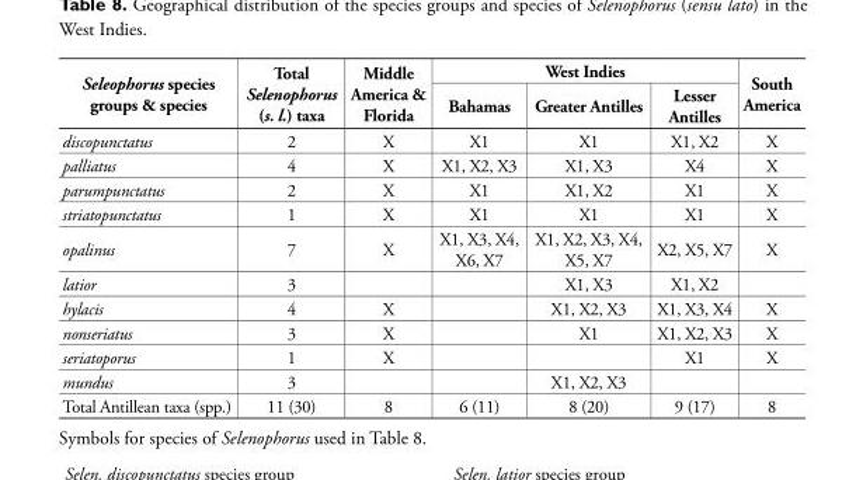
<table><thead><tr><td rowspan="2">Seleophorus species groups &amp; species</td><td rowspan="2">Total Selenophorus (s. l.) taxa</td><td rowspan="2">Middle America &amp; Florida</td><td colspan="3">West Indies</td><td rowspan="2">South America</td></tr><tr><td>Bahamas</td><td>Greater Antilles</td><td>Lesser Antilles</td></tr></thead><tbody><tr><td>discopunctatus</td><td>2</td><td>X</td><td>X1</td><td>X1</td><td>X1, X2</td><td>X</td></tr><tr><td>palliatus</td><td>4</td><td>X</td><td>X1, X2, X3</td><td>X1, X3</td><td>X4</td><td>X</td></tr><tr><td>parumpunctatus</td><td>2</td><td>X</td><td>X1</td><td>X1, X2</td><td>X1</td><td>X</td></tr><tr><td>striatopunctatus</td><td>1</td><td>X</td><td>X1</td><td>X1</td><td>X1</td><td>X</td></tr><tr><td>opalinus</td><td>7</td><td>X</td><td>X1, X3, X4, X6, X7</td><td>X1, X2, X3, X4, X5, X7</td><td>X2, X5, X7</td><td>X</td></tr><tr><td>latior</td><td>3</td><td></td><td></td><td>X1, X3</td><td>X1, X2</td><td></td></tr><tr><td>hylacis</td><td>4</td><td>X</td><td></td><td>X1, X2, X3</td><td>X1, X3, X4</td><td>X</td></tr><tr><td>nonseriatus</td><td>3</td><td>X</td><td></td><td>X1</td><td>X1, X2, X3</td><td>X</td></tr><tr><td>seriatoporus</td><td>1</td><td>X</td><td></td><td></td><td>X1</td><td>X</td></tr><tr><td>mundus</td><td>3</td><td></td><td></td><td>X1, X2, X3</td><td></td><td></td></tr><tr><td>Total Antillean taxa (spp.)</td><td>11 (30)</td><td>8</td><td>6 (11)</td><td>8 (20)</td><td>9 (17)</td><td>8</td></tr></tbody></table>